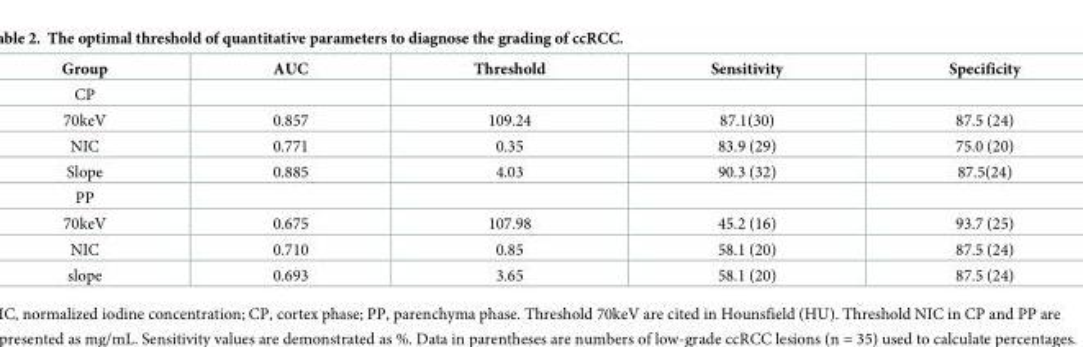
<table><thead><tr><td>Group</td><td>AUC</td><td>Threshold</td><td>Sensitivity</td><td>Specificity</td></tr></thead><tbody><tr><td colspan="5">CP</td></tr><tr><td>70keV</td><td>0.857</td><td>109.24</td><td>87.1(30)</td><td>87.5 (24)</td></tr><tr><td>NIC</td><td>0.771</td><td>0.35</td><td>83.9 (29)</td><td>75.0 (20)</td></tr><tr><td>Slope</td><td>0.885</td><td>4.03</td><td>90.3 (32)</td><td>87.5(24)</td></tr><tr><td colspan="5">PP</td></tr><tr><td>70keV</td><td>0.675</td><td>107.98</td><td>45.2 (16)</td><td>93.7 (25)</td></tr><tr><td>NIC</td><td>0.710</td><td>0.85</td><td>58.1 (20)</td><td>87.5 (24)</td></tr><tr><td>slope</td><td>0.693</td><td>3.65</td><td>58.1 (20)</td><td>87.5 (24)</td></tr></tbody></table>